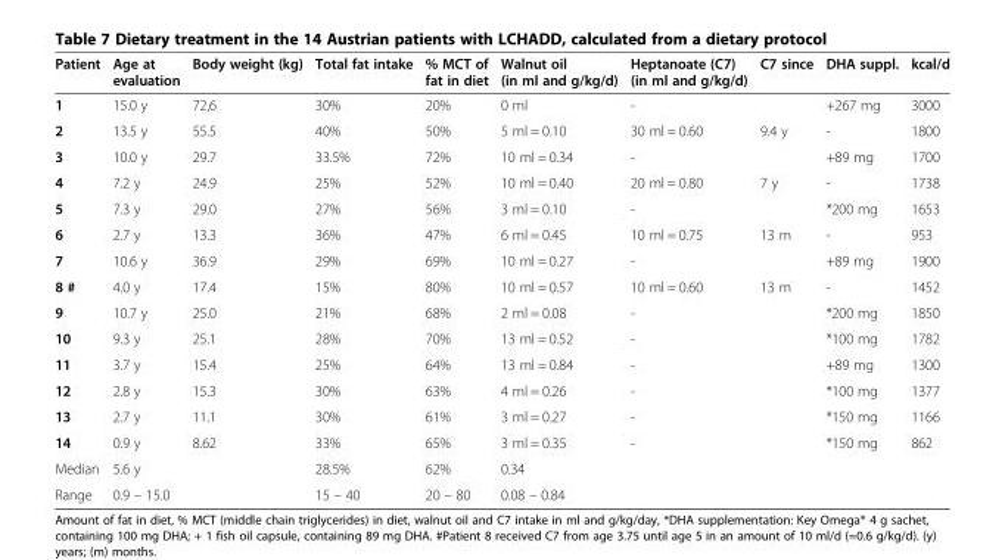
<table><thead><tr><td>Patient</td><td>Age at evaluation</td><td>Body weight (kg)</td><td>Total fat intake</td><td>% MCT of fat in diet</td><td>Walnut oil (in ml and g/kg/d)</td><td>Heptanoate (C7) (in ml and g/kg/d)</td><td>C7 since</td><td>DHA suppl.</td><td>kcal/d</td></tr></thead><tbody><tr><td>1</td><td>15.0 y</td><td>72,6</td><td>30%</td><td>20%</td><td>0 ml</td><td>-</td><td></td><td>+267 mg</td><td>3000</td></tr><tr><td>2</td><td>13.5 y</td><td>55.5</td><td>40%</td><td>50%</td><td>5 ml = 0.10</td><td>30 ml = 0.60</td><td>9.4 y</td><td>-</td><td>1800</td></tr><tr><td>3</td><td>10.0 y</td><td>29.7</td><td>33.5%</td><td>72%</td><td>10 ml = 0.34</td><td>-</td><td></td><td>+89 mg</td><td>1700</td></tr><tr><td>4</td><td>7.2 y</td><td>24.9</td><td>25%</td><td>52%</td><td>10 ml = 0.40</td><td>20 ml = 0.80</td><td>7 y</td><td>-</td><td>1738</td></tr><tr><td>5</td><td>7.3 y</td><td>29.0</td><td>27%</td><td>56%</td><td>3 ml = 0.10</td><td>-</td><td></td><td>*200 mg</td><td>1653</td></tr><tr><td>6</td><td>2.7 y</td><td>13.3</td><td>36%</td><td>47%</td><td>6 ml = 0.45</td><td>10 ml = 0.75</td><td>13 m</td><td>-</td><td>953</td></tr><tr><td>7</td><td>10.6 y</td><td>36.9</td><td>29%</td><td>69%</td><td>10 ml = 0.27</td><td>-</td><td></td><td>+89 mg</td><td>1900</td></tr><tr><td>8 #</td><td>4.0 y</td><td>17.4</td><td>15%</td><td>80%</td><td>10 ml = 0.57</td><td>10 ml = 0.60</td><td>13 m</td><td>-</td><td>1452</td></tr><tr><td>9</td><td>10.7 y</td><td>25.0</td><td>21%</td><td>68%</td><td>2 ml = 0.08</td><td>-</td><td></td><td>*200 mg</td><td>1850</td></tr><tr><td>10</td><td>9.3 y</td><td>25.1</td><td>28%</td><td>70%</td><td>13 ml = 0.52</td><td>-</td><td></td><td>*100 mg</td><td>1782</td></tr><tr><td>11</td><td>3.7 y</td><td>15.4</td><td>25%</td><td>64%</td><td>13 ml = 0.84</td><td>-</td><td></td><td>+89 mg</td><td>1300</td></tr><tr><td>12</td><td>2.8 y</td><td>15.3</td><td>30%</td><td>63%</td><td>4 ml = 0.26</td><td>-</td><td></td><td>*100 mg</td><td>1377</td></tr><tr><td>13</td><td>2.7 y</td><td>11.1</td><td>30%</td><td>61%</td><td>3 ml = 0.27</td><td>-</td><td></td><td>*150 mg</td><td>1166</td></tr><tr><td>14</td><td>0.9 y</td><td>8.62</td><td>33%</td><td>65%</td><td>3 ml = 0.35</td><td>-</td><td></td><td>*150 mg</td><td>862</td></tr><tr><td>Median</td><td>5.6 y</td><td></td><td>28.5%</td><td>62%</td><td>0.34</td><td></td><td></td><td></td><td></td></tr><tr><td>Range</td><td>0.9 – 15.0</td><td></td><td>15 – 40</td><td>20 – 80</td><td>0.08 – 0.84</td><td></td><td></td><td></td><td></td></tr></tbody></table>